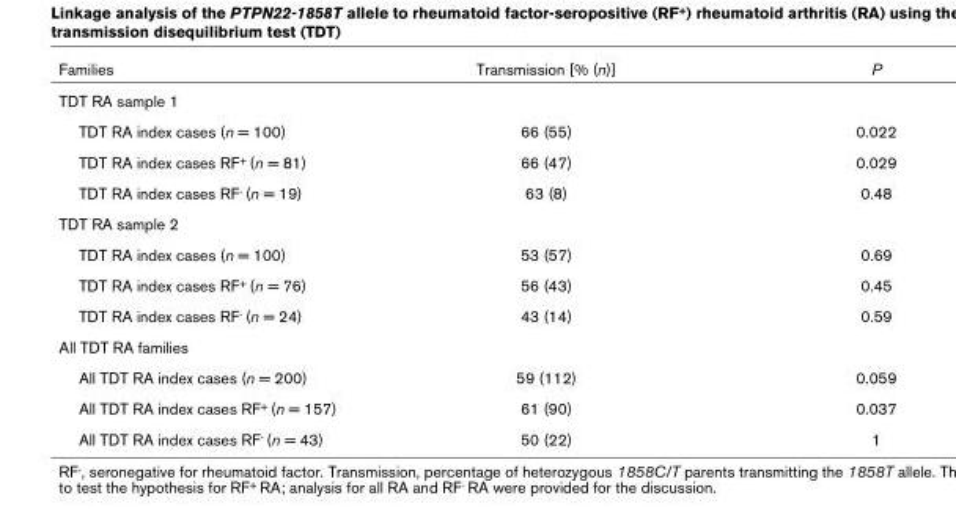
<table><thead><tr><td>Families</td><td>Transmission [% (n)]</td><td>P</td></tr></thead><tbody><tr><td colspan="3">TDT RA sample 1</td></tr><tr><td>TDT RA index cases (n = 100)</td><td>66 (55)</td><td>0.022</td></tr><tr><td>TDT RA index cases RF+ (n = 81)</td><td>66 (47)</td><td>0.029</td></tr><tr><td>TDT RA index cases RF- (n = 19)</td><td>63 (8)</td><td>0.48</td></tr><tr><td colspan="3">TDT RA sample 2</td></tr><tr><td>TDT RA index cases (n = 100)</td><td>53 (57)</td><td>0.69</td></tr><tr><td>TDT RA index cases RF+ (n = 76)</td><td>56 (43)</td><td>0.45</td></tr><tr><td>TDT RA index cases RF- (n = 24)</td><td>43 (14)</td><td>0.59</td></tr><tr><td colspan="3">All TDT RA families</td></tr><tr><td>All TDT RA index cases (n = 200)</td><td>59 (112)</td><td>0.059</td></tr><tr><td>All TDT RA index cases RF+ (n = 157)</td><td>61 (90)</td><td>0.037</td></tr><tr><td>All TDT RA index cases RF- (n = 43)</td><td>50 (22)</td><td>1</td></tr></tbody></table>